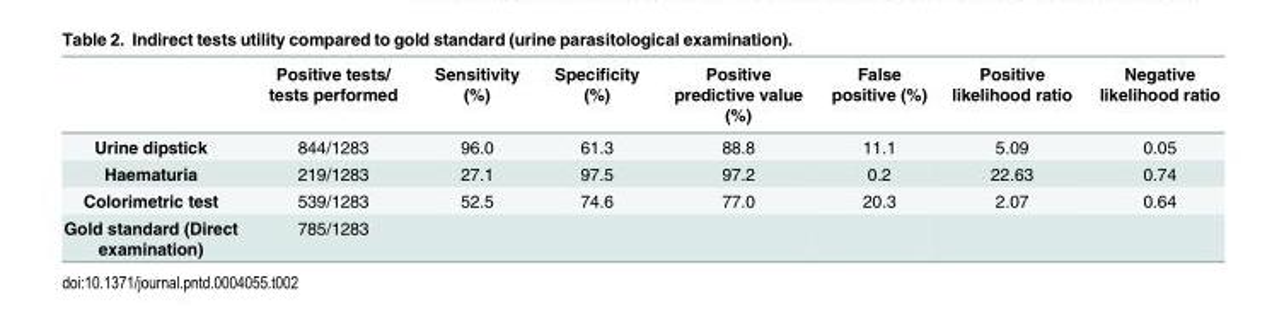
<table><thead><tr><td></td><td>Positive tests/ tests performed</td><td>Sensitivity (%)</td><td>Specificity (%)</td><td>Positive predictive value (%)</td><td>False positive (%)</td><td>Positive likelihood ratio</td><td>Negative likelihood ratio</td></tr></thead><tbody><tr><td>Urine dipstick</td><td>844/1283</td><td>96.0</td><td>61.3</td><td>88.8</td><td>11.1</td><td>5.09</td><td>0.05</td></tr><tr><td>Haematuria</td><td>219/1283</td><td>27.1</td><td>97.5</td><td>97.2</td><td>0.2</td><td>22.63</td><td>0.74</td></tr><tr><td>Colorimetric test</td><td>539/1283</td><td>52.5</td><td>74.6</td><td>77.0</td><td>20.3</td><td>2.07</td><td>0.64</td></tr><tr><td>Gold standard (Direct examination)</td><td>785/1283</td><td></td><td></td><td></td><td></td><td></td><td></td></tr></tbody></table>